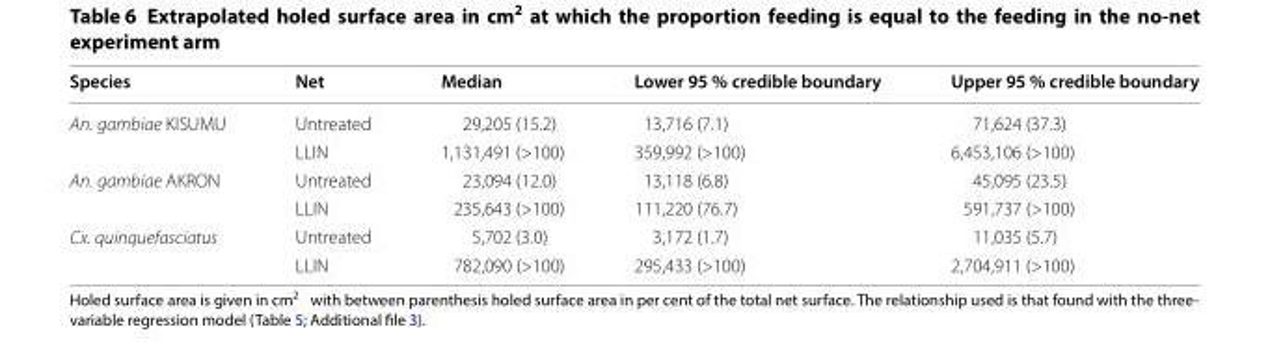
<table><thead><tr><td>Species</td><td>Net</td><td>Median</td><td>Lower 95 % credible boundary</td><td>Upper 95 % credible boundary</td></tr></thead><tbody><tr><td rowspan="2">An. gambiae KISUMU</td><td>Untreated</td><td>29,205 (15.2)</td><td>13,716 (7.1)</td><td>71,624 (37.3)</td></tr><tr><td>LLIN</td><td>1,131,491 (&gt;100)</td><td>359,992 (&gt;100)</td><td>6,453,106 (&gt;100)</td></tr><tr><td rowspan="2">An. gambiae AKRON</td><td>Untreated</td><td>23,094 (12.0)</td><td>13,118 (6.8)</td><td>45,095 (23.5)</td></tr><tr><td>LLIN</td><td>235,643 (&gt;100)</td><td>111,220 (76.7)</td><td>591,737 (&gt;100)</td></tr><tr><td rowspan="2">Cx. quinquefasciatus</td><td>Untreated</td><td>5,702 (3.0)</td><td>3,172 (1.7)</td><td>11,035 (5.7)</td></tr><tr><td>LLIN</td><td>782,090 (&gt;100)</td><td>295,433 (&gt;100)</td><td>2,704,911 (&gt;100)</td></tr></tbody></table>